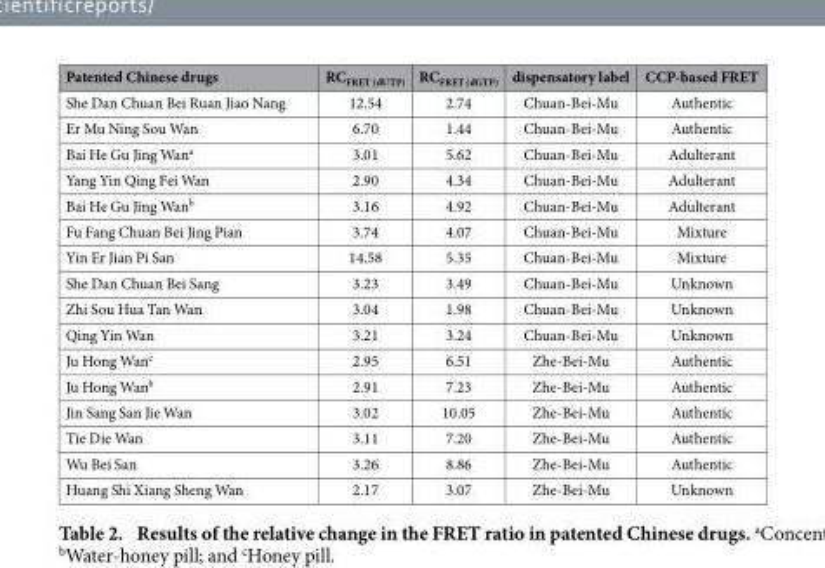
<table><thead><tr><td>Patented Chinese drugs</td><td>RC<sub>FRET (dUTP)</sub></td><td>RC<sub>FRET (dGTP)</sub></td><td>dispensatory label</td><td>CCP-based FRET</td></tr></thead><tbody><tr><td>She Dan Chuan Bei Ruan Jiao Nang</td><td>12.54</td><td>2.74</td><td>Chuan-Bei-Mu</td><td>Authentic</td></tr><tr><td>Er Mu Ning Sou Wan</td><td>6.70</td><td>1.44</td><td>Chuan-Bei-Mu</td><td>Authentic</td></tr><tr><td>Bai He Gu Jing Wan<sup>a</sup></td><td>3.01</td><td>5.62</td><td>Chuan-Bei-Mu</td><td>Adulterant</td></tr><tr><td>Yang Yin Qing Fei Wan</td><td>2.90</td><td>4.34</td><td>Chuan-Bei-Mu</td><td>Adulterant</td></tr><tr><td>Bai He Gu Jing Wan<sup>b</sup></td><td>3.16</td><td>4.92</td><td>Chuan-Bei-Mu</td><td>Adulterant</td></tr><tr><td>Fu Fang Chuan Bei Jing Pian</td><td>3.74</td><td>4.07</td><td>Chuan-Bei-Mu</td><td>Mixture</td></tr><tr><td>Yin Er Jian Pi San</td><td>14.58</td><td>5.35</td><td>Chuan-Bei-Mu</td><td>Mixture</td></tr><tr><td>She Dan Chuan Bei Sang</td><td>3.23</td><td>3.49</td><td>Chuan-Bei-Mu</td><td>Unknown</td></tr><tr><td>Zhi Sou Hua Tan Wan</td><td>3.04</td><td>1.98</td><td>Chuan-Bei-Mu</td><td>Unknown</td></tr><tr><td>Qing Yin Wan</td><td>3.21</td><td>3.24</td><td>Chuan-Bei-Mu</td><td>Unknown</td></tr><tr><td>Ju Hong Wan<sup>c</sup></td><td>2.95</td><td>6.51</td><td>Zhe-Bei-Mu</td><td>Authentic</td></tr><tr><td>Ju Hong Wan<sup>b</sup></td><td>2.91</td><td>7.23</td><td>Zhe-Bei-Mu</td><td>Authentic</td></tr><tr><td>Jin Sang San Jie Wan</td><td>3.02</td><td>10.05</td><td>Zhe-Bei-Mu</td><td>Authentic</td></tr><tr><td>Tie Die Wan</td><td>3.11</td><td>7.20</td><td>Zhe-Bei-Mu</td><td>Authentic</td></tr><tr><td>Wu Bei San</td><td>3.26</td><td>8.86</td><td>Zhe-Bei-Mu</td><td>Authentic</td></tr><tr><td>Huang Shi Xiang Sheng Wan</td><td>2.17</td><td>3.07</td><td>Zhe-Bei-Mu</td><td>Unknown</td></tr></tbody></table>